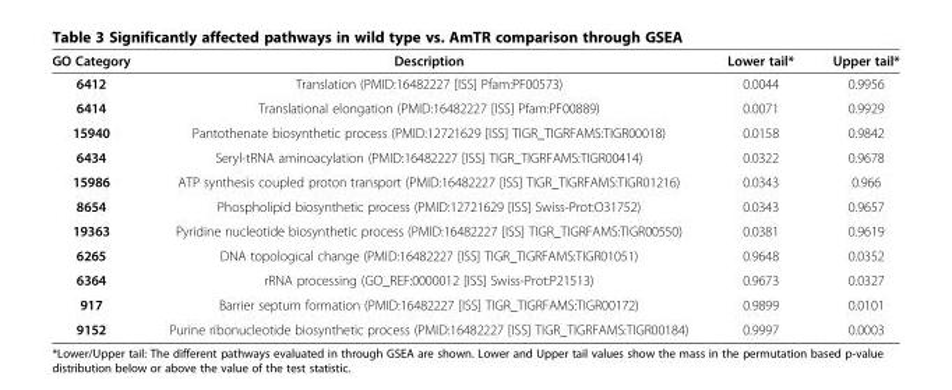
<table><thead><tr><td>GO Category</td><td>Description</td><td>Lower tail*</td><td>Upper tail*</td></tr></thead><tbody><tr><td>6412</td><td>Translation (PMID:16482227 [ISS] Pfam:PF00573)</td><td>0.0044</td><td>0.9956</td></tr><tr><td>6414</td><td>Translational elongation (PMID:16482227 [ISS] Pfam:PF00889)</td><td>0.0071</td><td>0.9929</td></tr><tr><td>15940</td><td>Pantothenate biosynthetic process (PMID:12721629 [ISS] TIGR_TIGRFAMS:TIGR00018)</td><td>0.0158</td><td>0.9842</td></tr><tr><td>6434</td><td>Seryl-tRNA aminoacylation (PMID:16482227 [ISS] TIGR_TIGRFAMS:TIGR00414)</td><td>0.0322</td><td>0.9678</td></tr><tr><td>15986</td><td>ATP synthesis coupled proton transport (PMID:16482227 [ISS] TIGR_TIGRFAMS:TIGR01216)</td><td>0.0343</td><td>0.966</td></tr><tr><td>8654</td><td>Phospholipid biosynthetic process (PMID:12721629 [ISS] Swiss-Prot:O31752)</td><td>0.0343</td><td>0.9657</td></tr><tr><td>19363</td><td>Pyridine nucleotide biosynthetic process (PMID:16482227 [ISS] TIGR_TIGRFAMS:TIGR00550)</td><td>0.0381</td><td>0.9619</td></tr><tr><td>6265</td><td>DNA topological change (PMID:16482227 [ISS] TIGR_TIGRFAMS:TIGR01051)</td><td>0.9648</td><td>0.0352</td></tr><tr><td>6364</td><td>rRNA processing (GO_REF:0000012 [ISS] Swiss-Prot:P21513)</td><td>0.9673</td><td>0.0327</td></tr><tr><td>917</td><td>Barrier septum formation (PMID:16482227 [ISS] TIGR_TIGRFAMS:TIGR00172)</td><td>0.9899</td><td>0.0101</td></tr><tr><td>9152</td><td>Purine ribonucleotide biosynthetic process (PMID:16482227 [ISS] TIGR_TIGRFAMS:TIGR00184)</td><td>0.9997</td><td>0.0003</td></tr></tbody></table>